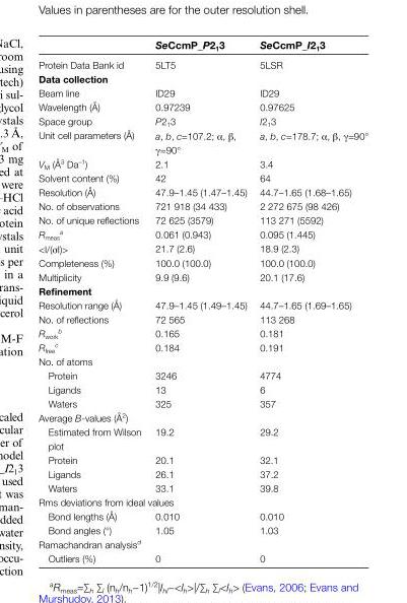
<table><thead><tr><td></td><td>SeCcmP_P2<sub>1</sub>3</td><td>SeCcmP_I2<sub>1</sub>3</td></tr></thead><tbody><tr><td>Protein Data Bank id</td><td>5LT5</td><td>5LSR</td></tr><tr><td colspan="3">Data collection</td></tr><tr><td>Beam line</td><td>ID29</td><td>ID29</td></tr><tr><td>Wavelength (Å)</td><td>0.97239</td><td>0.97625</td></tr><tr><td>Space group</td><td>P2<sub>1</sub>3</td><td>I2<sub>1</sub>3</td></tr><tr><td>Unit cell parameters (Å)</td><td>a, b, c=107.2; α, β, γ=90°</td><td>a, b, c=178.7; α, β, γ=90°</td></tr><tr><td>V<sub>M</sub> (Å<sup>3</sup> Da<sup>–1</sup>)</td><td>2.1</td><td>3.4</td></tr><tr><td>Solvent content (%)</td><td>42</td><td>64</td></tr><tr><td>Resolution (Å)</td><td>47.9–1.45 (1.47–1.45)</td><td>44.7–1.65 (1.68–1.65)</td></tr><tr><td>No. of observations</td><td>721 918 (34 433)</td><td>2 272 675 (98 426)</td></tr><tr><td>No. of unique reflections</td><td>72 625 (3579)</td><td>113 271 (5592)</td></tr><tr><td>R<sub>meas</sub> <sup>a</sup></td><td>0.061 (0.943)</td><td>0.095 (1.445)</td></tr><tr><td>&lt;I/(σI)&gt;</td><td>21.7 (2.6)</td><td>18.9 (2.3)</td></tr><tr><td>Completeness (%)</td><td>100.0 (100.0)</td><td>100.0 (100.0)</td></tr><tr><td>Multiplicity</td><td>9.9 (9.6)</td><td>20.1 (17.6)</td></tr><tr><td colspan="3">Refinement</td></tr><tr><td>Resolution range (Å)</td><td>47.9–1.45 (1.49–1.45)</td><td>44.7–1.65 (1.69–1.65)</td></tr><tr><td>No. of reflections</td><td>72 565</td><td>113 268</td></tr><tr><td>R<sub>work</sub> <sup>b</sup></td><td>0.165</td><td>0.181</td></tr><tr><td>R<sub>free</sub> <sup>c</sup></td><td>0.184</td><td>0.191</td></tr><tr><td colspan="3">No. of atoms</td></tr><tr><td>Protein</td><td>3246</td><td>4774</td></tr><tr><td>Ligands</td><td>13</td><td>6</td></tr><tr><td>Waters</td><td>325</td><td>357</td></tr><tr><td colspan="3">Average B-values (Å<sup>2</sup>)</td></tr><tr><td>Estimated from Wilson plot</td><td>19.2</td><td>29.2</td></tr><tr><td>Protein</td><td>20.1</td><td>32.1</td></tr><tr><td>Ligands</td><td>26.1</td><td>37.2</td></tr><tr><td>Waters</td><td>33.1</td><td>39.8</td></tr><tr><td colspan="3">Rms deviations from ideal values</td></tr><tr><td>Bond lengths (Å)</td><td>0.010</td><td>0.010</td></tr><tr><td>Bond angles (°)</td><td>1.05</td><td>1.03</td></tr><tr><td colspan="3">Ramachandran analysis<sup>d</sup></td></tr><tr><td>Outliers (%)</td><td>0</td><td>0</td></tr></tbody></table>